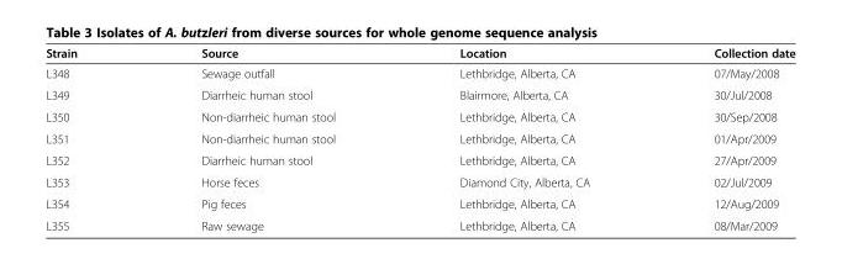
<table><thead><tr><td>Strain</td><td>Source</td><td>Location</td><td>Collection date</td></tr></thead><tbody><tr><td>L348</td><td>Sewage outfall</td><td>Lethbridge, Alberta, CA</td><td>07/May/2008</td></tr><tr><td>L349</td><td>Diarrheic human stool</td><td>Blairmore, Alberta, CA</td><td>30/Jul/2008</td></tr><tr><td>L350</td><td>Non-diarrheic human stool</td><td>Lethbridge, Alberta, CA</td><td>30/Sep/2008</td></tr><tr><td>L351</td><td>Non-diarrheic human stool</td><td>Lethbridge, Alberta, CA</td><td>01/Apr/2009</td></tr><tr><td>L352</td><td>Diarrheic human stool</td><td>Lethbridge, Alberta, CA</td><td>27/Apr/2009</td></tr><tr><td>L353</td><td>Horse feces</td><td>Diamond City, Alberta, CA</td><td>02/Jul/2009</td></tr><tr><td>L354</td><td>Pig feces</td><td>Lethbridge, Alberta, CA</td><td>12/Aug/2009</td></tr><tr><td>L355</td><td>Raw sewage</td><td>Lethbridge, Alberta, CA</td><td>08/Mar/2009</td></tr></tbody></table>